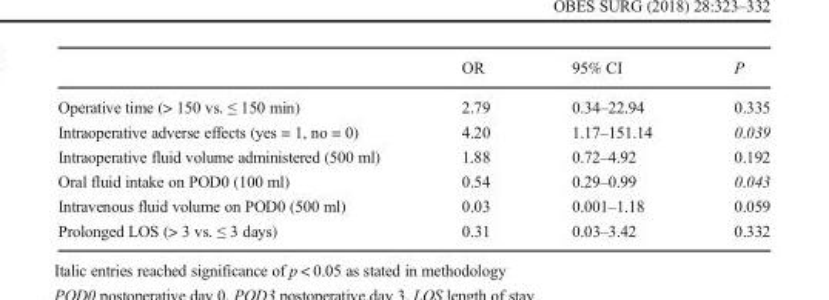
<table><thead><tr><td></td><td>OR</td><td>95% CI</td><td>P</td></tr></thead><tbody><tr><td>Operative time (&gt; 150 vs. ≤ 150 min)</td><td>2.79</td><td>0.34–22.94</td><td>0.335</td></tr><tr><td>Intraoperative adverse effects (yes = 1, no = 0)</td><td>4.20</td><td>1.17–151.14</td><td>0.039</td></tr><tr><td>Intraoperative fluid volume administered (500 ml)</td><td>1.88</td><td>0.72–4.92</td><td>0.192</td></tr><tr><td>Oral fluid intake on POD0 (100 ml)</td><td>0.54</td><td>0.29–0.99</td><td>0.043</td></tr><tr><td>Intravenous fluid volume on POD0 (500 ml)</td><td>0.03</td><td>0.001–1.18</td><td>0.059</td></tr><tr><td>Prolonged LOS (&gt; 3 vs. ≤ 3 days)</td><td>0.31</td><td>0.03–3.42</td><td>0.332</td></tr></tbody></table>